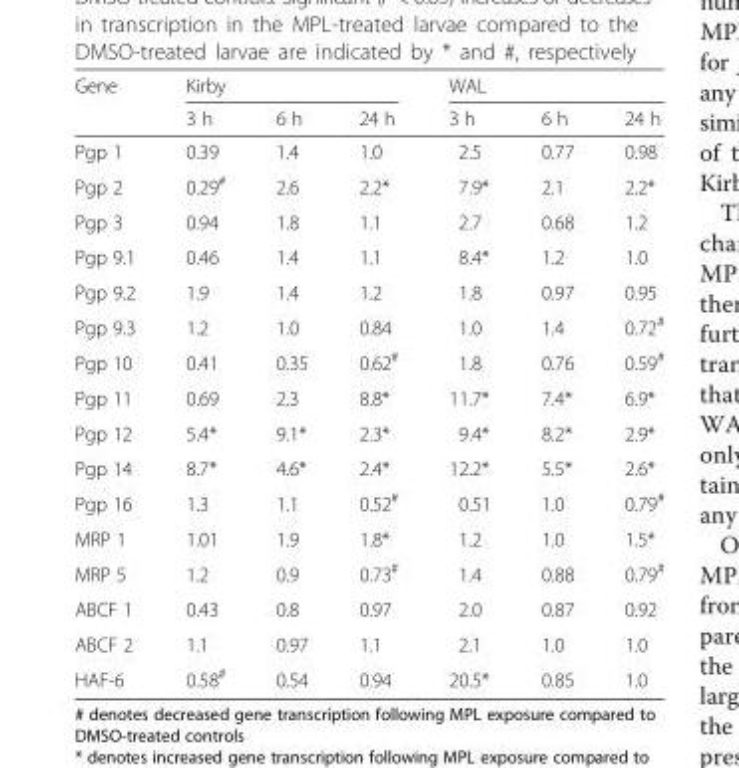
<table><thead><tr><td rowspan="2">Gene</td><td colspan="3">Kirby</td><td colspan="3">WAL</td></tr><tr><td>3 h</td><td>6 h</td><td>24 h</td><td>3 h</td><td>6 h</td><td>24 h</td></tr></thead><tbody><tr><td>Pgp 1</td><td>0.39</td><td>1.4</td><td>1.0</td><td>2.5</td><td>0.77</td><td>0.98</td></tr><tr><td>Pgp 2</td><td>0.29<sup>#</sup></td><td>2.6</td><td>2.2*</td><td>7.9*</td><td>2.1</td><td>2.2*</td></tr><tr><td>Pgp 3</td><td>0.94</td><td>1.8</td><td>1.1</td><td>2.7</td><td>0.68</td><td>1.2</td></tr><tr><td>Pgp 9.1</td><td>0.46</td><td>1.4</td><td>1.1</td><td>8.4*</td><td>1.2</td><td>1.0</td></tr><tr><td>Pgp 9.2</td><td>1.9</td><td>1.4</td><td>1.2</td><td>1.8</td><td>0.97</td><td>0.95</td></tr><tr><td>Pgp 9.3</td><td>1.2</td><td>1.0</td><td>0.84</td><td>1.0</td><td>1.4</td><td>0.72<sup>#</sup></td></tr><tr><td>Pgp 10</td><td>0.41</td><td>0.35</td><td>0.62<sup>#</sup></td><td>1.8</td><td>0.76</td><td>0.59<sup>#</sup></td></tr><tr><td>Pgp 11</td><td>0.69</td><td>2.3</td><td>8.8*</td><td>11.7*</td><td>7.4*</td><td>6.9*</td></tr><tr><td>Pgp 12</td><td>5.4*</td><td>9.1*</td><td>2.3*</td><td>9.4*</td><td>8.2*</td><td>2.9*</td></tr><tr><td>Pgp 14</td><td>8.7*</td><td>4.6*</td><td>2.4*</td><td>12.2*</td><td>5.5*</td><td>2.6*</td></tr><tr><td>Pgp 16</td><td>1.3</td><td>1.1</td><td>0.52<sup>#</sup></td><td>0.51</td><td>1.0</td><td>0.79<sup>#</sup></td></tr><tr><td>MRP 1</td><td>1.01</td><td>1.9</td><td>1.8*</td><td>1.2</td><td>1.0</td><td>1.5*</td></tr><tr><td>MRP 5</td><td>1.2</td><td>0.9</td><td>0.73<sup>#</sup></td><td>1.4</td><td>0.88</td><td>0.79<sup>#</sup></td></tr><tr><td>ABCF 1</td><td>0.43</td><td>0.8</td><td>0.97</td><td>2.0</td><td>0.87</td><td>0.92</td></tr><tr><td>ABCF 2</td><td>1.1</td><td>0.97</td><td>1.1</td><td>2.1</td><td>1.0</td><td>1.0</td></tr><tr><td>HAF-6</td><td>0.58<sup>#</sup></td><td>0.54</td><td>0.94</td><td>20.5*</td><td>0.85</td><td>1.0</td></tr></tbody></table>